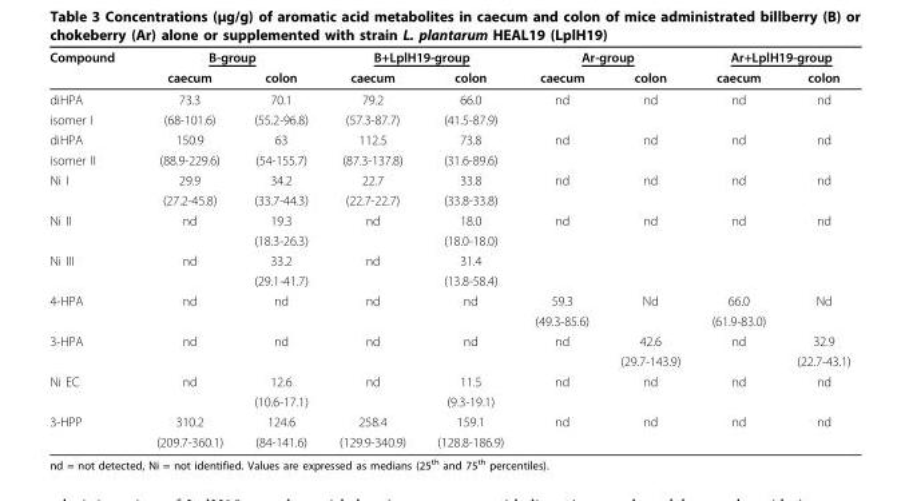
<table><thead><tr><td rowspan="2">Compound</td><td colspan="2">B-group</td><td colspan="2">B+LplH19-group</td><td colspan="2">Ar-group</td><td colspan="2">Ar+LplH19-group</td></tr><tr><td>caecum</td><td>colon</td><td>caecum</td><td>colon</td><td>caecum</td><td>colon</td><td>caecum</td><td>colon</td></tr></thead><tbody><tr><td>diHPA</td><td>73.3</td><td>70.1</td><td>79.2</td><td>66.0</td><td>nd</td><td>nd</td><td>nd</td><td>nd</td></tr><tr><td>isomer I</td><td>(68-101.6)</td><td>(55.2-96.8)</td><td>(57.3-87.7)</td><td>(41.5-87.9)</td><td></td><td></td><td></td><td></td></tr><tr><td>diHPA</td><td>150.9</td><td>63</td><td>112.5</td><td>73.8</td><td>nd</td><td>nd</td><td>nd</td><td>nd</td></tr><tr><td>isomer II</td><td>(88.9-229.6)</td><td>(54-155.7)</td><td>(87.3-137.8)</td><td>(31.6-89.6)</td><td></td><td></td><td></td><td></td></tr><tr><td rowspan="2">Ni I</td><td>29.9</td><td>34.2</td><td>22.7</td><td>33.8</td><td>nd</td><td>nd</td><td>nd</td><td>nd</td></tr><tr><td>(27.2-45.8)</td><td>(33.7-44.3)</td><td>(22.7-22.7)</td><td>(33.8-33.8)</td><td></td><td></td><td></td><td></td></tr><tr><td rowspan="2">Ni II</td><td>nd</td><td>19.3</td><td>nd</td><td>18.0</td><td>nd</td><td>nd</td><td>nd</td><td>nd</td></tr><tr><td></td><td>(18.3-26.3)</td><td></td><td>(18.0-18.0)</td><td></td><td></td><td></td><td></td></tr><tr><td rowspan="2">Ni III</td><td>nd</td><td>33.2</td><td>nd</td><td>31.4</td><td></td><td></td><td></td><td></td></tr><tr><td></td><td>(29.1-41.7)</td><td></td><td>(13.8-58.4)</td><td></td><td></td><td></td><td></td></tr><tr><td rowspan="2">4-HPA</td><td>nd</td><td>nd</td><td>nd</td><td>nd</td><td>59.3</td><td>Nd</td><td>66.0</td><td>Nd</td></tr><tr><td></td><td></td><td></td><td></td><td>(49.3-85.6)</td><td></td><td>(61.9-83.0)</td><td></td></tr><tr><td rowspan="2">3-HPA</td><td>nd</td><td>nd</td><td>nd</td><td>nd</td><td>nd</td><td>42.6</td><td>nd</td><td>32.9</td></tr><tr><td></td><td></td><td></td><td></td><td></td><td>(29.7-143.9)</td><td></td><td>(22.7-43.1)</td></tr><tr><td rowspan="2">Ni EC</td><td>nd</td><td>12.6</td><td>nd</td><td>11.5</td><td>nd</td><td>nd</td><td>nd</td><td>nd</td></tr><tr><td></td><td>(10.6-17.1)</td><td></td><td>(9.3-19.1)</td><td></td><td></td><td></td><td></td></tr><tr><td rowspan="2">3-HPP</td><td>310.2</td><td>124.6</td><td>258.4</td><td>159.1</td><td>nd</td><td>nd</td><td>nd</td><td>nd</td></tr><tr><td>(209.7-360.1)</td><td>(84-141.6)</td><td>(129.9-340.9)</td><td>(128.8-186.9)</td><td></td><td></td><td></td><td></td></tr></tbody></table>